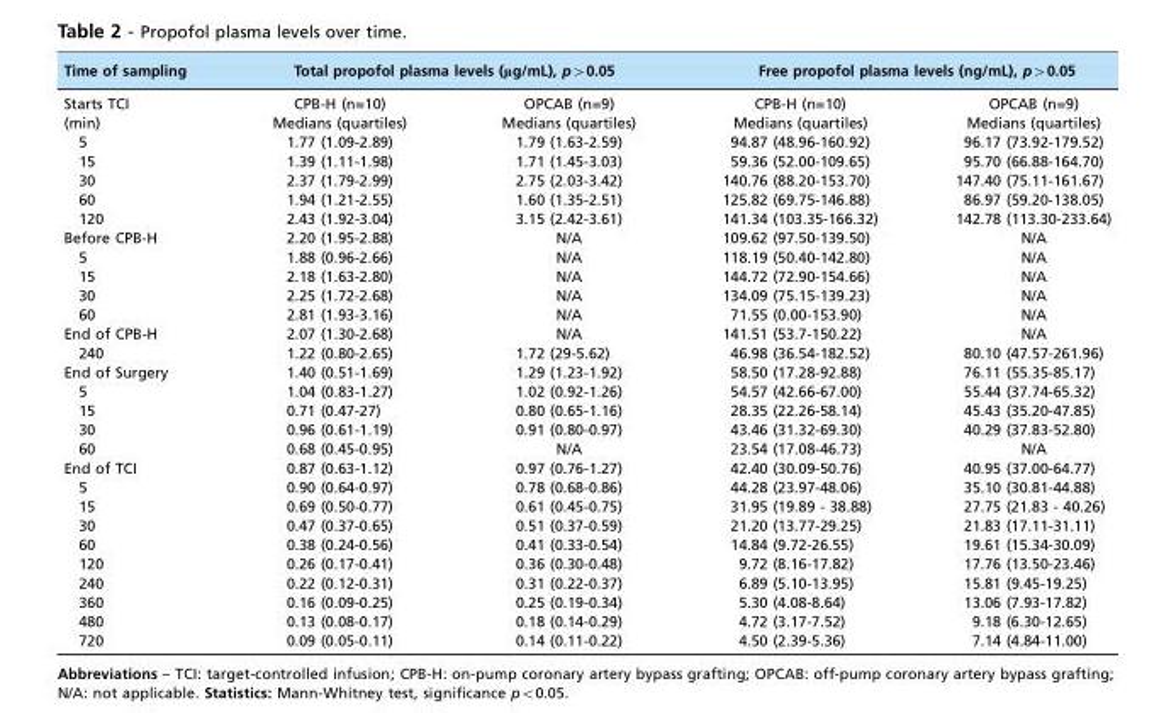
<table><thead><tr><td rowspan="2">Time of sampling Starts TCI</td><td colspan="2">Total propofol plasma levels (μg/mL), p&gt;0.05</td><td colspan="2">Free propofol plasma levels (ng/mL), p&gt;0.05</td></tr><tr><td>CPB-H (n=10)</td><td>OPCAB (n=9)</td><td>CPB-H (n=10)</td><td>OPCAB (n=9)</td></tr></thead><tbody><tr><td>(min)</td><td>Medians (quartiles)</td><td>Medians (quartiles)</td><td>Medians (quartiles)</td><td>Medians (quartiles)</td></tr><tr><td>5</td><td>1.77 (1.09-2.89)</td><td>1.79 (1.63-2.59)</td><td>94.87 (48.96-160.92)</td><td>96.17 (73.92-179.52)</td></tr><tr><td>15</td><td>1.39 (1.11-1.98)</td><td>1.71 (1.45-3.03)</td><td>59.36 (52.00-109.65)</td><td>95.70 (66.88-164.70)</td></tr><tr><td>30</td><td>2.37 (1.79-2.99)</td><td>2.75 (2.03-3.42)</td><td>140.76 (88.20-153.70)</td><td>147.40 (75.11-161.67)</td></tr><tr><td>60</td><td>1.94 (1.21-2.55)</td><td>1.60 (1.35-2.51)</td><td>125.82 (69.75-146.88)</td><td>86.97 (59.20-138.05)</td></tr><tr><td>120</td><td>2.43 (1.92-3.04)</td><td>3.15 (2.42-3.61)</td><td>141.34 (103.35-166.32)</td><td>142.78 (113.30-233.64)</td></tr><tr><td>Before CPB-H</td><td>2.20 (1.95-2.88)</td><td>N/A</td><td>109.62 (97.50-139.50)</td><td>N/A</td></tr><tr><td>5</td><td>1.88 (0.96-2.66)</td><td>N/A</td><td>118.19 (50.40-142.80)</td><td>N/A</td></tr><tr><td>15</td><td>2.18 (1.63-2.80)</td><td>N/A</td><td>144.72 (72.90-154.66)</td><td>N/A</td></tr><tr><td>30</td><td>2.25 (1.72-2.68)</td><td>N/A</td><td>134.09 (75.15-139.23)</td><td>N/A</td></tr><tr><td>60</td><td>2.81 (1.93-3.16)</td><td>N/A</td><td>71.55 (0.00-153.90)</td><td>N/A</td></tr><tr><td>End of CPB-H</td><td>2.07 (1.30-2.68)</td><td>N/A</td><td>141.51 (53.7-150.22)</td><td>N/A</td></tr><tr><td>240</td><td>1.22 (0.80-2.65)</td><td>1.72 (29-5.62)</td><td>46.98 (36.54-182.52)</td><td>80.10 (47.57-261.96)</td></tr><tr><td>End of Surgery</td><td>1.40 (0.51-1.69)</td><td>1.29 (1.23-1.92)</td><td>58.50 (17.28-92.88)</td><td>76.11 (55.35-85.17)</td></tr><tr><td>5</td><td>1.04 (0.83-1.27)</td><td>1.02 (0.92-1.26)</td><td>54.57 (42.66-67.00)</td><td>55.44 (37.74-65.32)</td></tr><tr><td>15</td><td>0.71 (0.47-27)</td><td>0.80 (0.65-1.16)</td><td>28.35 (22.26-58.14)</td><td>45.43 (35.20-47.85)</td></tr><tr><td>30</td><td>0.96 (0.61-1.19)</td><td>0.91 (0.80-0.97)</td><td>43.46 (31.32-69.30)</td><td>40.29 (37.83-52.80)</td></tr><tr><td>60</td><td>0.68 (0.45-0.95)</td><td>N/A</td><td>23.54 (17.08-46.73)</td><td>N/A</td></tr><tr><td>End of TCI</td><td>0.87 (0.63-1.12)</td><td>0.97 (0.76-1.27)</td><td>42.40 (30.09-50.76)</td><td>40.95 (37.00-64.77)</td></tr><tr><td>5</td><td>0.90 (0.64-0.97)</td><td>0.78 (0.68-0.86)</td><td>44.28 (23.97-48.06)</td><td>35.10 (30.81-44.88)</td></tr><tr><td>15</td><td>0.69 (0.50-0.77)</td><td>0.61 (0.45-0.75)</td><td>31.95 (19.89 - 38.88)</td><td>27.75 (21.83 - 40.26)</td></tr><tr><td>30</td><td>0.47 (0.37-0.65)</td><td>0.51 (0.37-0.59)</td><td>21.20 (13.77-29.25)</td><td>21.83 (17.11-31.11)</td></tr><tr><td>60</td><td>0.38 (0.24-0.56)</td><td>0.41 (0.33-0.54)</td><td>14.84 (9.72-26.55)</td><td>19.61 (15.34-30.09)</td></tr><tr><td>120</td><td>0.26 (0.17-0.41)</td><td>0.36 (0.30-0.48)</td><td>9.72 (8.16-17.82)</td><td>17.76 (13.50-23.46)</td></tr><tr><td>240</td><td>0.22 (0.12-0.31)</td><td>0.31 (0.22-0.37)</td><td>6.89 (5.10-13.95)</td><td>15.81 (9.45-19.25)</td></tr><tr><td>360</td><td>0.16 (0.09-0.25)</td><td>0.25 (0.19-0.34)</td><td>5.30 (4.08-8.64)</td><td>13.06 (7.93-17.82)</td></tr><tr><td>480</td><td>0.13 (0.08-0.17)</td><td>0.18 (0.14-0.29)</td><td>4.72 (3.17-7.52)</td><td>9.18 (6.30-12.65)</td></tr><tr><td>720</td><td>0.09 (0.05-0.11)</td><td>0.14 (0.11-0.22)</td><td>4.50 (2.39-5.36)</td><td>7.14 (4.84-11.00)</td></tr></tbody></table>